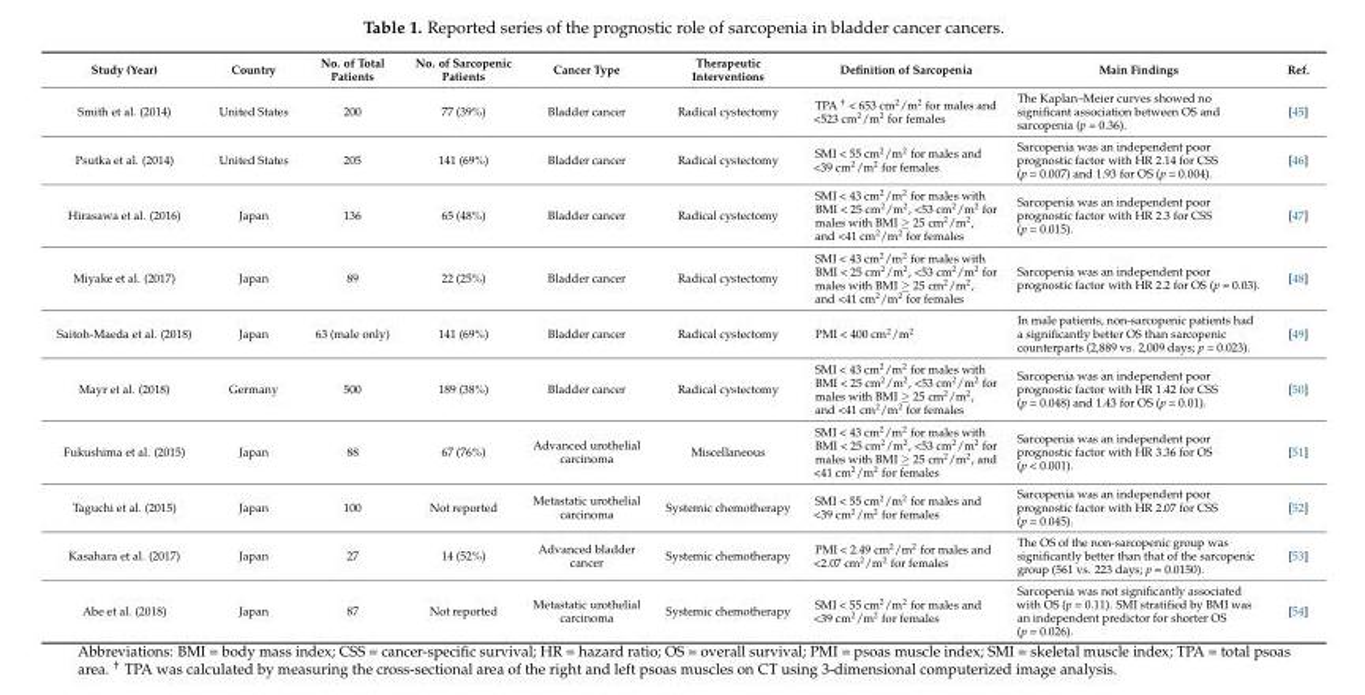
<table><thead><tr><td>Study (Year)</td><td>Country</td><td>No. of Total Patients</td><td>No. of Sarcopenic Patients</td><td>Cancer Type</td><td>Therapeutic Interventions</td><td>Definition of Sarcopenia</td><td>Main Findings</td><td>Ref.</td></tr></thead><tbody><tr><td>Smith et al. (2014)</td><td>United States</td><td>200</td><td>77 (39%)</td><td>Bladder cancer</td><td>Radical cystectomy</td><td>TPA <sup>†</sup> &lt; 653 cm<sup>2</sup>/m<sup>2</sup> for males and &lt;523 cm<sup>2</sup>/m<sup>2</sup> for females</td><td>The Kaplan–Meier curves showed no significant association between OS and sarcopenia (p = 0.36).</td><td>[45]</td></tr><tr><td>Psutka et al. (2014)</td><td>United States</td><td>205</td><td>141 (69%)</td><td>Bladder cancer</td><td>Radical cystectomy</td><td>SMI &lt; 55 cm<sup>2</sup>/m<sup>2</sup> for males and &lt;39 cm<sup>2</sup>/m<sup>2</sup> for females</td><td>Sarcopenia was an independent poor prognostic factor with HR 2.14 for CSS (p = 0.007) and 1.93 for OS (p = 0.004).</td><td>[46]</td></tr><tr><td>Hirasawa et al. (2016)</td><td>Japan</td><td>136</td><td>65 (48%)</td><td>Bladder cancer</td><td>Radical cystectomy</td><td>SMI &lt; 43 cm<sup>2</sup>/m<sup>2</sup> for males with BMI &lt; 25 cm<sup>2</sup>/m<sup>2</sup>, &lt;53 cm<sup>2</sup>/m<sup>2</sup> for males with BMI ≥ 25 cm<sup>2</sup>/m<sup>2</sup>, and &lt;41 cm<sup>2</sup>/m<sup>2</sup> for females</td><td>Sarcopenia was an independent poor prognostic factor with HR 2.3 for CSS (p = 0.015).</td><td>[47]</td></tr><tr><td>Miyake et al. (2017)</td><td>Japan</td><td>89</td><td>22 (25%)</td><td>Bladder cancer</td><td>Radical cystectomy</td><td>SMI &lt; 43 cm<sup>2</sup>/m<sup>2</sup> for males with BMI &lt; 25 cm<sup>2</sup>/m<sup>2</sup>, &lt;53 cm<sup>2</sup>/m<sup>2</sup> for males with BMI ≥ 25 cm<sup>2</sup>/m<sup>2</sup>, and &lt;41 cm<sup>2</sup>/m<sup>2</sup> for females</td><td>Sarcopenia was an independent poor prognostic factor with HR 2.2 for OS (p = 0.03).</td><td>[48]</td></tr><tr><td>Saitoh-Maeda et al. (2018)</td><td>Japan</td><td>63 (male only)</td><td>141 (69%)</td><td>Bladder cancer</td><td>Radical cystectomy</td><td>PMI &lt; 400 cm<sup>2</sup>/m<sup>2</sup></td><td>In male patients, non-sarcopenic patients had a significantly better OS than sarcopenic counterparts (2,889 vs. 2,009 days; p = 0.023).</td><td>[49]</td></tr><tr><td>Mayr et al. (2018)</td><td>Germany</td><td>500</td><td>189 (38%)</td><td>Bladder cancer</td><td>Radical cystectomy</td><td>SMI &lt; 43 cm<sup>2</sup>/m<sup>2</sup> for males with BMI &lt; 25 cm<sup>2</sup>/m<sup>2</sup>, &lt;53 cm<sup>2</sup>/m<sup>2</sup> for males with BMI ≥ 25 cm<sup>2</sup>/m<sup>2</sup>, and &lt;41 cm<sup>2</sup>/m<sup>2</sup> for females</td><td>Sarcopenia was an independent poor prognostic factor with HR 1.42 for CSS (p = 0.048) and 1.43 for OS (p = 0.01).</td><td>[50]</td></tr><tr><td>Fukushima et al. (2015)</td><td>Japan</td><td>88</td><td>67 (76%)</td><td>Advanced urothelial carcinoma</td><td>Miscellaneous</td><td>SMI &lt; 43 cm<sup>2</sup>/m<sup>2</sup> for males with BMI &lt; 25 cm<sup>2</sup>/m<sup>2</sup>, &lt;53 cm<sup>2</sup>/m<sup>2</sup> for males with BMI ≥ 25 cm<sup>2</sup>/m<sup>2</sup>, and &lt;41 cm<sup>2</sup>/m<sup>2</sup> for females</td><td>Sarcopenia was an independent poor prognostic factor with HR 3.36 for OS (p &lt; 0.001).</td><td>[51]</td></tr><tr><td>Taguchi et al. (2015)</td><td>Japan</td><td>100</td><td>Not reported</td><td>Metastatic urothelial carcinoma</td><td>Systemic chemotherapy</td><td>SMI &lt; 55 cm<sup>2</sup>/m<sup>2</sup> for males and &lt;39 cm<sup>2</sup>/m<sup>2</sup> for females</td><td>Sarcopenia was an independent poor prognostic factor with HR 2.07 for CSS (p = 0.045).</td><td>[52]</td></tr><tr><td>Kasahara et al. (2017)</td><td>Japan</td><td>27</td><td>14 (52%)</td><td>Advanced bladder cancer</td><td>Systemic chemotherapy</td><td>PMI &lt; 2.49 cm<sup>2</sup>/m<sup>2</sup> for males and &lt;2.07 cm<sup>2</sup>/m<sup>2</sup> for females</td><td>The OS of the non-sarcopenic group was significantly better than that of the sarcopenic group (561 vs. 223 days; p = 0.0150).</td><td>[53]</td></tr><tr><td>Abe et al. (2018)</td><td>Japan</td><td>87</td><td>Not reported</td><td>Metastatic urothelial carcinoma</td><td>Systemic chemotherapy</td><td>SMI &lt; 55 cm<sup>2</sup>/m<sup>2</sup> for males and &lt;39 cm<sup>2</sup>/m<sup>2</sup> for females</td><td>Sarcopenia was not significantly associated with OS (p = 0.11). SMI stratified by BMI was an independent predictor for shorter OS (p = 0.026).</td><td>[54]</td></tr></tbody></table>